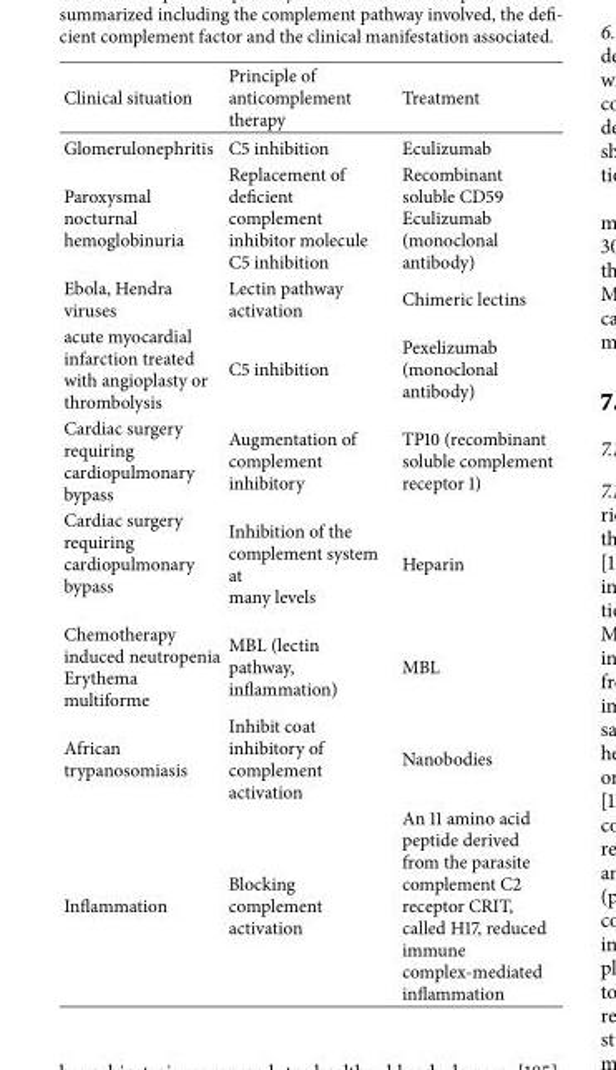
<table><thead><tr><td>Clinical situation</td><td>Principle of anticomplement therapy</td><td>Treatment</td></tr></thead><tbody><tr><td>Glomerulonephritis</td><td>C5 inhibition</td><td>Eculizumab</td></tr><tr><td>Paroxysmal nocturnal hemoglobinuria</td><td>Replacement of deficient complement inhibitor molecule C5 inhibition</td><td>Recombinant soluble CD59 Eculizumab (monoclonal antibody)</td></tr><tr><td>Ebola, Hendra viruses</td><td>Lectin pathway activation</td><td>Chimeric lectins</td></tr><tr><td>acute myocardial infarction treated with angioplasty or thrombolysis</td><td>C5 inhibition</td><td>Pexelizumab (monoclonal antibody)</td></tr><tr><td>Cardiac surgery requiring cardiopulmonary bypass</td><td>Augmentation of complement inhibitory</td><td>TP10 (recombinant soluble complement receptor 1)</td></tr><tr><td>Cardiac surgery requiring cardiopulmonary bypass</td><td>Inhibition of the complement system at many levels</td><td>Heparin</td></tr><tr><td>Chemotherapy induced neutropenia Erythema multiforme</td><td>MBL (lectin pathway, inflammation)</td><td>MBL</td></tr><tr><td>African trypanosomiasis</td><td>Inhibit coat inhibitory of complement activation</td><td>Nanobodies</td></tr><tr><td>Inflammation</td><td>Blocking complement activation</td><td>An 11 amino acid peptide derived from the parasite complement C2 receptor CRIT, called H17, reduced immune complex-mediated inflammation</td></tr></tbody></table>